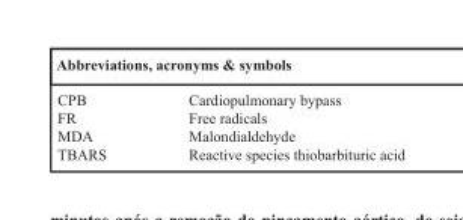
<table><thead><tr><td colspan="2">Abbreviations, acronyms &amp; symbols</td></tr><tr><td>CPB</td><td>Cardiopulmonary bypass</td></tr></thead><tbody><tr><td>FR</td><td>Free radicals</td></tr><tr><td>MDA</td><td>Malondialdehyde</td></tr><tr><td>TBARS</td><td>Reactive species thiobarbituric acid</td></tr></tbody></table>